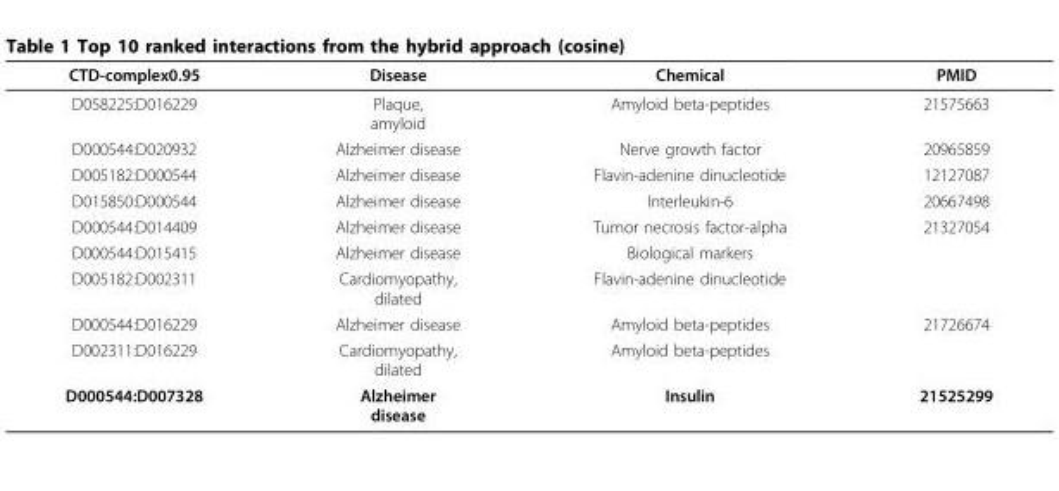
<table><thead><tr><td>CTD-complex0.95</td><td>Disease</td><td>Chemical</td><td>PMID</td></tr></thead><tbody><tr><td>D058225:D016229</td><td>Plaque, amyloid</td><td>Amyloid beta-peptides</td><td>21575663</td></tr><tr><td>D000544:D020932</td><td>Alzheimer disease</td><td>Nerve growth factor</td><td>20965859</td></tr><tr><td>D005182:D000544</td><td>Alzheimer disease</td><td>Flavin-adenine dinucleotide</td><td>12127087</td></tr><tr><td>D015850:D000544</td><td>Alzheimer disease</td><td>Interleukin-6</td><td>20667498</td></tr><tr><td>D000544:D014409</td><td>Alzheimer disease</td><td>Tumor necrosis factor-alpha</td><td>21327054</td></tr><tr><td>D000544:D015415</td><td>Alzheimer disease</td><td>Biological markers</td><td></td></tr><tr><td>D005182:D002311</td><td>Cardiomyopathy, dilated</td><td>Flavin-adenine dinucleotide</td><td></td></tr><tr><td>D000544:D016229</td><td>Alzheimer disease</td><td>Amyloid beta-peptides</td><td>21726674</td></tr><tr><td>D002311:D016229</td><td>Cardiomyopathy, dilated</td><td>Amyloid beta-peptides</td><td></td></tr><tr><td>D000544:D007328</td><td>Alzheimer disease</td><td>Insulin</td><td>21525299</td></tr></tbody></table>